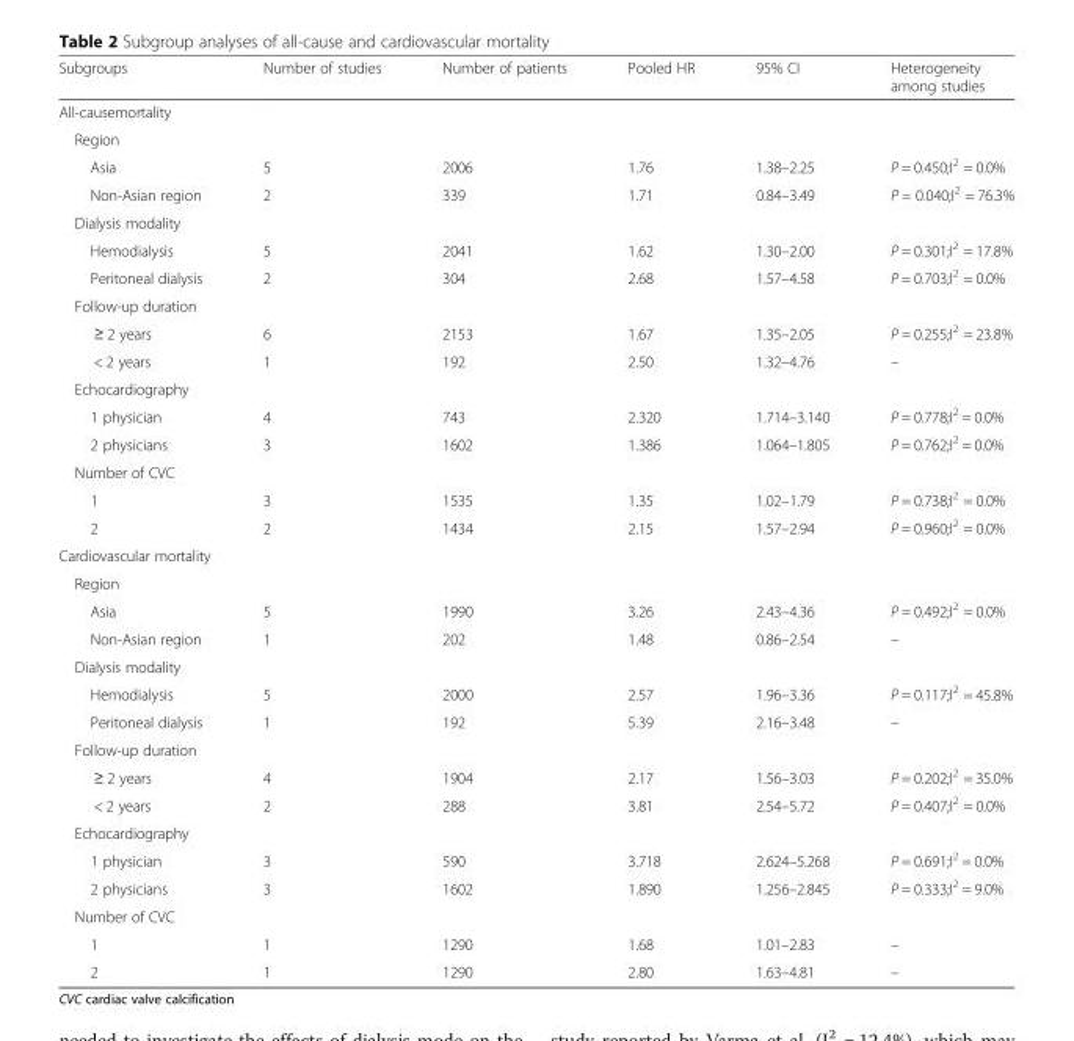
<table><thead><tr><td>Subgroups</td><td>Number of studies</td><td>Number of patients</td><td>Pooled HR</td><td>95% CI</td><td>Heterogeneity among studies</td></tr></thead><tbody><tr><td colspan="6">All-causemortality</td></tr><tr><td colspan="6">Region</td></tr><tr><td>Asia</td><td>5</td><td>2006</td><td>1.76</td><td>1.38–2.25</td><td>P = 0.450;I<sup>2</sup> = 0.0%</td></tr><tr><td>Non-Asian region</td><td>2</td><td>339</td><td>1.71</td><td>0.84–3.49</td><td>P = 0.040;I<sup>2</sup> = 76.3%</td></tr><tr><td colspan="6">Dialysis modality</td></tr><tr><td>Hemodialysis</td><td>5</td><td>2041</td><td>1.62</td><td>1.30–2.00</td><td>P = 0.301;I<sup>2</sup> = 17.8%</td></tr><tr><td>Peritoneal dialysis</td><td>2</td><td>304</td><td>2.68</td><td>1.57–4.58</td><td>P = 0.703;I<sup>2</sup> = 0.0%</td></tr><tr><td colspan="6">Follow-up duration</td></tr><tr><td>≥ 2 years</td><td>6</td><td>2153</td><td>1.67</td><td>1.35–2.05</td><td>P = 0.255;I<sup>2</sup> = 23.8%</td></tr><tr><td>&lt; 2 years</td><td>1</td><td>192</td><td>2.50</td><td>1.32–4.76</td><td>–</td></tr><tr><td colspan="6">Echocardiography</td></tr><tr><td>1 physician</td><td>4</td><td>743</td><td>2.320</td><td>1.714–3.140</td><td>P = 0.778;I<sup>2</sup> = 0.0%</td></tr><tr><td>2 physicians</td><td>3</td><td>1602</td><td>1.386</td><td>1.064–1.805</td><td>P = 0.762;I<sup>2</sup> = 0.0%</td></tr><tr><td colspan="6">Number of CVC</td></tr><tr><td>1</td><td>3</td><td>1535</td><td>1.35</td><td>1.02–1.79</td><td>P = 0.738;I<sup>2</sup> = 0.0%</td></tr><tr><td>2</td><td>2</td><td>1434</td><td>2.15</td><td>1.57–2.94</td><td>P = 0.960;I<sup>2</sup> = 0.0%</td></tr><tr><td colspan="6">Cardiovascular mortality</td></tr><tr><td colspan="6">Region</td></tr><tr><td>Asia</td><td>5</td><td>1990</td><td>3.26</td><td>2.43–4.36</td><td>P = 0.492;I<sup>2</sup> = 0.0%</td></tr><tr><td>Non-Asian region</td><td>1</td><td>202</td><td>1.48</td><td>0.86–2.54</td><td>–</td></tr><tr><td colspan="6">Dialysis modality</td></tr><tr><td>Hemodialysis</td><td>5</td><td>2000</td><td>2.57</td><td>1.96–3.36</td><td>P = 0.117;I<sup>2</sup> = 45.8%</td></tr><tr><td>Peritoneal dialysis</td><td>1</td><td>192</td><td>5.39</td><td>2.16–3.48</td><td>–</td></tr><tr><td colspan="6">Follow-up duration</td></tr><tr><td>≥ 2 years</td><td>4</td><td>1904</td><td>2.17</td><td>1.56–3.03</td><td>P = 0.202;I<sup>2</sup> = 35.0%</td></tr><tr><td>&lt; 2 years</td><td>2</td><td>288</td><td>3.81</td><td>2.54–5.72</td><td>P = 0.407;I<sup>2</sup> = 0.0%</td></tr><tr><td colspan="6">Echocardiography</td></tr><tr><td>1 physician</td><td>3</td><td>590</td><td>3.718</td><td>2.624–5.268</td><td>P = 0.691;I<sup>2</sup> = 0.0%</td></tr><tr><td>2 physicians</td><td>3</td><td>1602</td><td>1.890</td><td>1.256–2.845</td><td>P = 0.333;I<sup>2</sup> = 9.0%</td></tr><tr><td colspan="6">Number of CVC</td></tr><tr><td>1</td><td>1</td><td>1290</td><td>1.68</td><td>1.01–2.83</td><td>–</td></tr><tr><td>2</td><td>1</td><td>1290</td><td>2.80</td><td>1.63–4.81</td><td>–</td></tr></tbody></table>